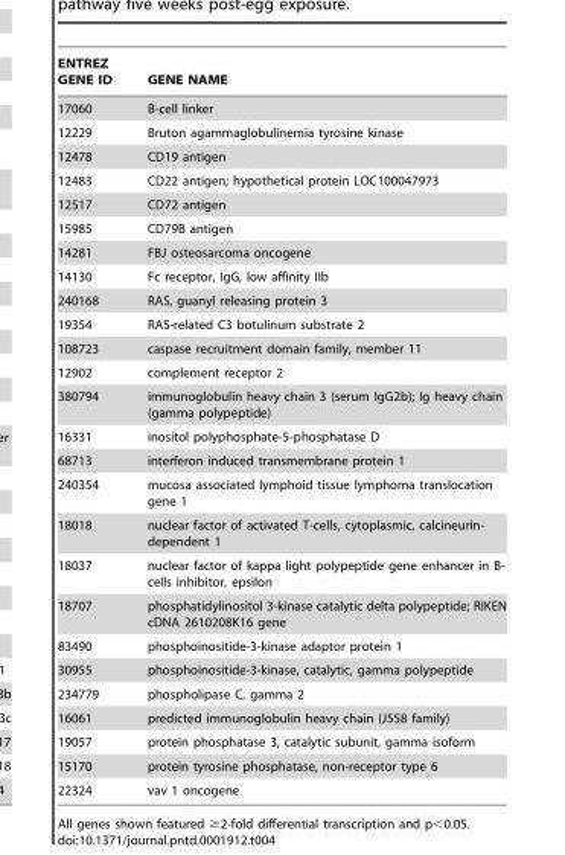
<table><thead><tr><td>ENTREZ GENE ID</td><td>GENE NAME</td></tr></thead><tbody><tr><td>17060</td><td>B-cell linker</td></tr><tr><td>12229</td><td>Bruton agammaglobulinemia tyrosine kinase</td></tr><tr><td>12478</td><td>CD19 antigen</td></tr><tr><td>12483</td><td>CD22 antigen; hypothetical protein LOC100047973</td></tr><tr><td>12517</td><td>CD72 antigen</td></tr><tr><td>15985</td><td>CD79B antigen</td></tr><tr><td>14281</td><td>FBJ osteosarcoma oncogene</td></tr><tr><td>14130</td><td>Fc receptor, IgG, low affinity IIb</td></tr><tr><td>240168</td><td>RAS, guanyl releasing protein 3</td></tr><tr><td>19354</td><td>RAS-related C3 botulinum substrate 2</td></tr><tr><td>108723</td><td>caspase recruitment domain family, member 11</td></tr><tr><td>12902</td><td>complement receptor 2</td></tr><tr><td>380794</td><td>immunoglobulin heavy chain 3 (serum IgG2b); Ig heavy chain (gamma polypeptide)</td></tr><tr><td>16331</td><td>inositol polyphosphate-5-phosphatase D</td></tr><tr><td>68713</td><td>interferon induced transmembrane protein 1</td></tr><tr><td>240354</td><td>mucosa associated lymphoid tissue lymphoma translocation gene 1</td></tr><tr><td>18018</td><td>nuclear factor of activated T-cells, cytoplasmic, calcineurin- dependent 1</td></tr><tr><td>18037</td><td>nuclear factor of kappa light polypeptide gene enhancer in B- cells inhibitor, epsilon</td></tr><tr><td>18707</td><td>phosphatidylinositol 3-kinase catalytic delta polypeptide; RIKEN cDNA 2610208K16 gene</td></tr><tr><td>83490</td><td>phosphoinositide-3-kinase adaptor protein 1</td></tr><tr><td>30955</td><td>phosphoinositide-3-kinase, catalytic, gamma polypeptide</td></tr><tr><td>234779</td><td>phospholipase C, gamma 2</td></tr><tr><td>16061</td><td>predicted immunoglobulin heavy chain (J558 family)</td></tr><tr><td>19057</td><td>protein phosphatase 3, catalytic subunit, gamma isoform</td></tr><tr><td>15170</td><td>protein tyrosine phosphatase, non-receptor type 6</td></tr><tr><td>22324</td><td>vav 1 oncogene</td></tr></tbody></table>